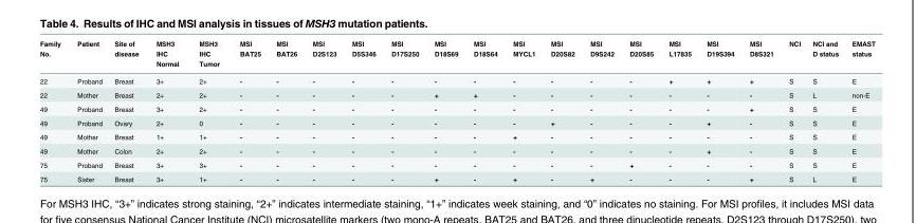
<table><thead><tr><td>Family No.</td><td>Patient</td><td>Site of disease</td><td>MSH3 IHC Normal</td><td>MSH3 IHC Tumor</td><td>MSI BAT25</td><td>MSI BAT26</td><td>MSI D2S123</td><td>MSI D5S346</td><td>MSI D17S250</td><td>MSI D18S69</td><td>MSI D18S64</td><td>MSI MYCL1</td><td>MSI D20S82</td><td>MSI D9S242</td><td>MSI D20S85</td><td>MSI L17835</td><td>MSI D19S394</td><td>MSI D8S321</td><td>NCI</td><td>NCI and D status</td><td>EMAST status</td></tr></thead><tbody><tr><td>22</td><td>Proband</td><td>Breast</td><td>3+</td><td>2+</td><td>-</td><td>-</td><td>-</td><td>-</td><td>-</td><td>-</td><td>-</td><td>-</td><td>-</td><td>-</td><td>-</td><td>+</td><td>+</td><td>+</td><td>S</td><td>S</td><td>E</td></tr><tr><td>22</td><td>Mother</td><td>Breast</td><td>2+</td><td>2+</td><td>-</td><td>-</td><td>-</td><td>-</td><td>-</td><td>+</td><td>+</td><td>-</td><td>-</td><td>-</td><td>-</td><td>-</td><td>-</td><td>-</td><td>S</td><td>L</td><td>non-E</td></tr><tr><td>49</td><td>Proband</td><td>Breast</td><td>3+</td><td>2+</td><td>-</td><td>-</td><td>-</td><td>-</td><td>-</td><td>-</td><td>-</td><td>-</td><td>-</td><td>-</td><td>-</td><td>-</td><td>-</td><td>+</td><td>S</td><td>S</td><td>E</td></tr><tr><td>49</td><td>Proband</td><td>Ovary</td><td>2+</td><td>0</td><td>-</td><td>-</td><td>-</td><td>-</td><td>-</td><td>-</td><td>-</td><td>-</td><td>+</td><td>-</td><td>-</td><td>-</td><td>+</td><td>-</td><td>S</td><td>S</td><td>E</td></tr><tr><td>49</td><td>Mother</td><td>Breast</td><td>1+</td><td>1+</td><td>-</td><td>-</td><td>-</td><td>-</td><td>-</td><td>-</td><td>-</td><td>+</td><td>-</td><td>-</td><td>-</td><td>-</td><td>-</td><td>-</td><td>S</td><td>S</td><td>E</td></tr><tr><td>49</td><td>Mother</td><td>Colon</td><td>2+</td><td>2+</td><td>-</td><td>-</td><td>-</td><td>-</td><td>-</td><td>-</td><td>-</td><td>-</td><td>-</td><td>-</td><td>-</td><td>-</td><td>+</td><td>-</td><td>S</td><td>S</td><td>E</td></tr><tr><td>75</td><td>Proband</td><td>Breast</td><td>3+</td><td>3+</td><td>-</td><td>-</td><td>-</td><td>-</td><td>-</td><td>-</td><td>-</td><td>-</td><td>-</td><td>-</td><td>+</td><td>-</td><td>-</td><td>-</td><td>S</td><td>S</td><td>E</td></tr><tr><td>75</td><td>Sister</td><td>Breast</td><td>3+</td><td>1+</td><td>-</td><td>-</td><td>-</td><td>-</td><td>-</td><td>+</td><td>-</td><td>+</td><td>-</td><td>+</td><td>-</td><td>-</td><td>-</td><td>+</td><td>S</td><td>L</td><td>E</td></tr></tbody></table>